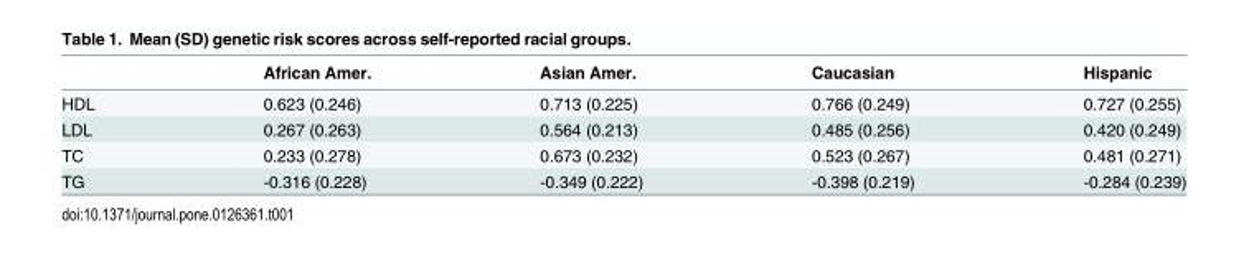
<table><thead><tr><td></td><td>African Amer.</td><td>Asian Amer.</td><td>Caucasian</td><td>Hispanic</td></tr></thead><tbody><tr><td>HDL</td><td>0.623 (0.246)</td><td>0.713 (0.225)</td><td>0.766 (0.249)</td><td>0.727 (0.255)</td></tr><tr><td>LDL</td><td>0.267 (0.263)</td><td>0.564 (0.213)</td><td>0.485 (0.256)</td><td>0.420 (0.249)</td></tr><tr><td>TC</td><td>0.233 (0.278)</td><td>0.673 (0.232)</td><td>0.523 (0.267)</td><td>0.481 (0.271)</td></tr><tr><td>TG</td><td>-0.316 (0.228)</td><td>-0.349 (0.222)</td><td>-0.398 (0.219)</td><td>-0.284 (0.239)</td></tr></tbody></table>